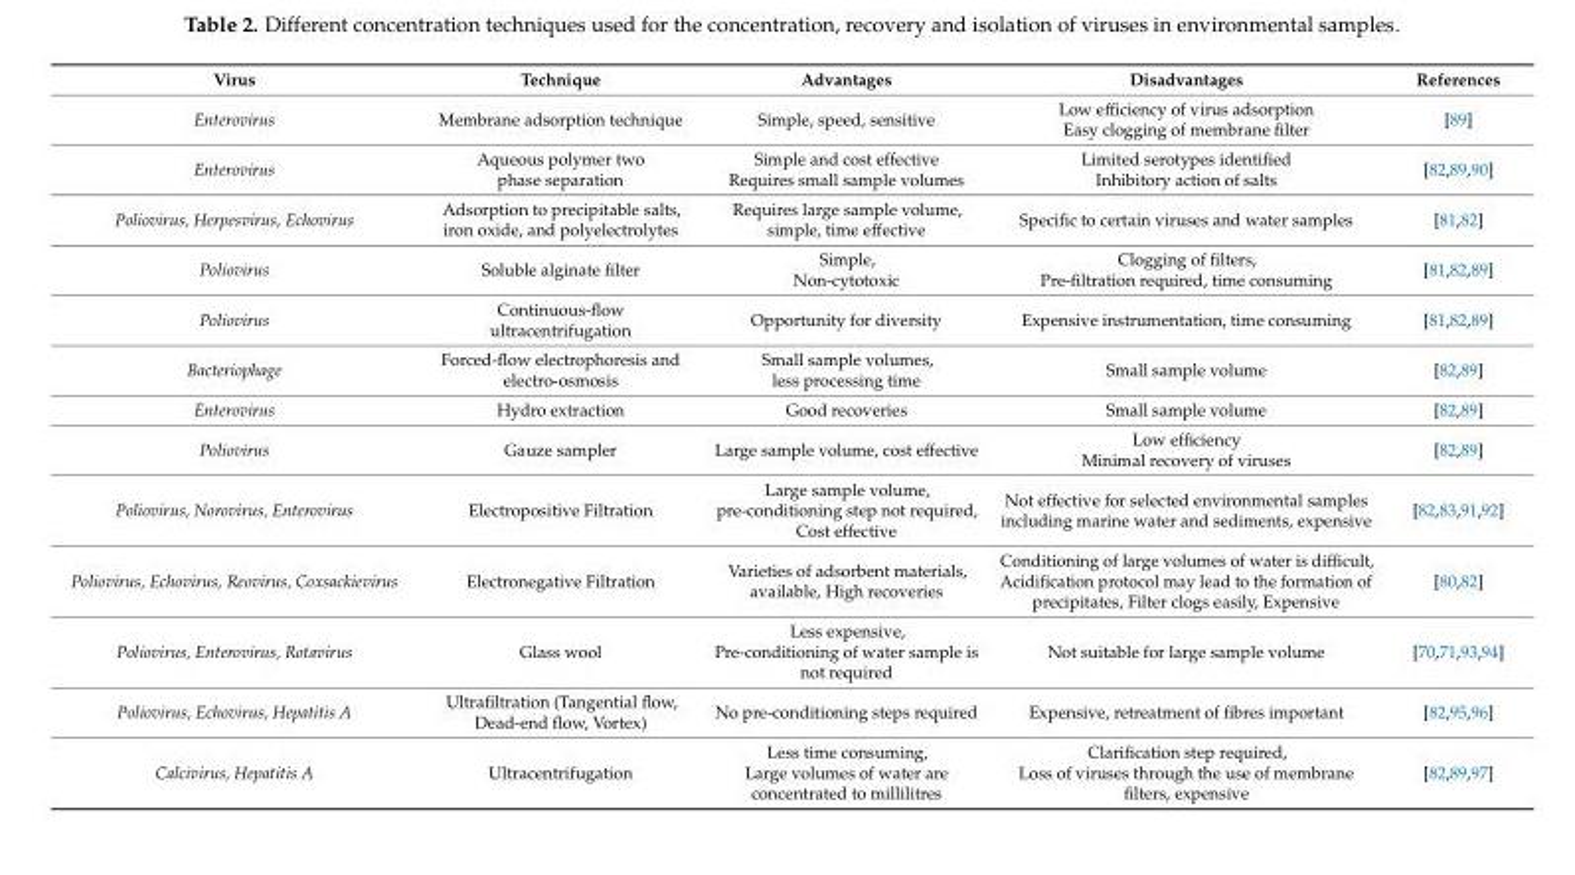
<table><thead><tr><td>Virus</td><td>Technique</td><td>Advantages</td><td>Disadvantages</td><td>References</td></tr></thead><tbody><tr><td>Enterovirus</td><td>Membrane adsorption technique</td><td>Simple, speed, sensitive</td><td>Low efficiency of virus adsorption Easy clogging of membrane filter</td><td>[89]</td></tr><tr><td>Enterovirus</td><td>Aqueous polymer two phase separation</td><td>Simple and cost effective Requires small sample volumes</td><td>Limited serotypes identified Inhibitory action of salts</td><td>[82,89,90]</td></tr><tr><td>Poliovirus, Herpesvirus, Echovirus</td><td>Adsorption to precipitable salts, iron oxide, and polyelectrolytes</td><td>Requires large sample volume, simple, time effective</td><td>Specific to certain viruses and water samples</td><td>[81,82]</td></tr><tr><td>Poliovirus</td><td>Soluble alginate filter</td><td>Simple, Non-cytotoxic</td><td>Clogging of filters, Pre-filtration required, time consuming</td><td>[81,82,89]</td></tr><tr><td>Poliovirus</td><td>Continuous-flow ultracentrifugation</td><td>Opportunity for diversity</td><td>Expensive instrumentation, time consuming</td><td>[81,82,89]</td></tr><tr><td>Bacteriophage</td><td>Forced-flow electrophoresis and electro-osmosis</td><td>Small sample volumes, less processing time</td><td>Small sample volume</td><td>[82,89]</td></tr><tr><td>Enterovirus</td><td>Hydro extraction</td><td>Good recoveries</td><td>Small sample volume</td><td>[82,89]</td></tr><tr><td>Poliovirus</td><td>Gauze sampler</td><td>Large sample volume, cost effective</td><td>Low efficiency Minimal recovery of viruses</td><td>[82,89]</td></tr><tr><td>Poliovirus, Norovirus, Enterovirus</td><td>Electropositive Filtration</td><td>Large sample volume, pre-conditioning step not required, Cost effective</td><td>Not effective for selected environmental samples including marine water and sediments, expensive</td><td>[82,83,91,92]</td></tr><tr><td>Poliovirus, Echovirus, Reovirus, Coxsackievirus</td><td>Electronegative Filtration</td><td>Varieties of adsorbent materials, available, High recoveries</td><td>Conditioning of large volumes of water is difficult, Acidification protocol may lead to the formation of precipitates, Filter clogs easily, Expensive</td><td>[80,82]</td></tr><tr><td>Poliovirus, Enterovirus, Rotavirus</td><td>Glass wool</td><td>Less expensive, Pre-conditioning of water sample is not required</td><td>Not suitable for large sample volume</td><td>[70,71,93,94]</td></tr><tr><td>Poliovirus, Echovirus, Hepatitis A</td><td>Ultrafiltration (Tangential flow, Dead-end flow, Vortex)</td><td>No pre-conditioning steps required</td><td>Expensive, retreatment of fibres important</td><td>[82,95,96]</td></tr><tr><td>Calcivirus, Hepatitis A</td><td>Ultracentrifugation</td><td>Less time consuming, Large volumes of water are concentrated to millilitres</td><td>Clarification step required, Loss of viruses through the use of membrane filters, expensive</td><td>[82,89,97]</td></tr></tbody></table>